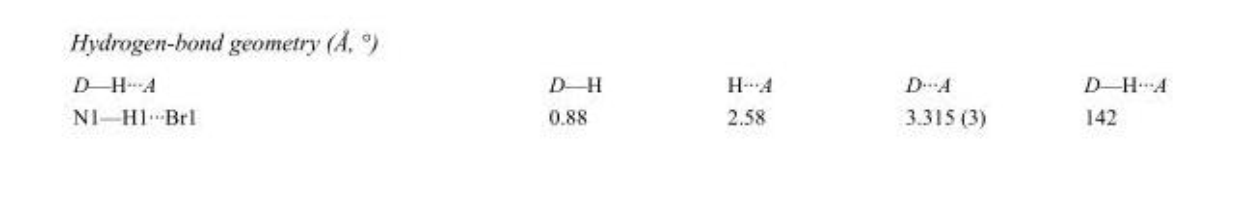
<table><tbody><tr><td>D—H···A</td><td>D—H</td><td>H···A</td><td>D···A</td><td>D—H···A</td></tr><tr><td>N1—H1···Br1</td><td>0.88</td><td>2.58</td><td>3.315 (3)</td><td>142</td></tr></tbody></table>